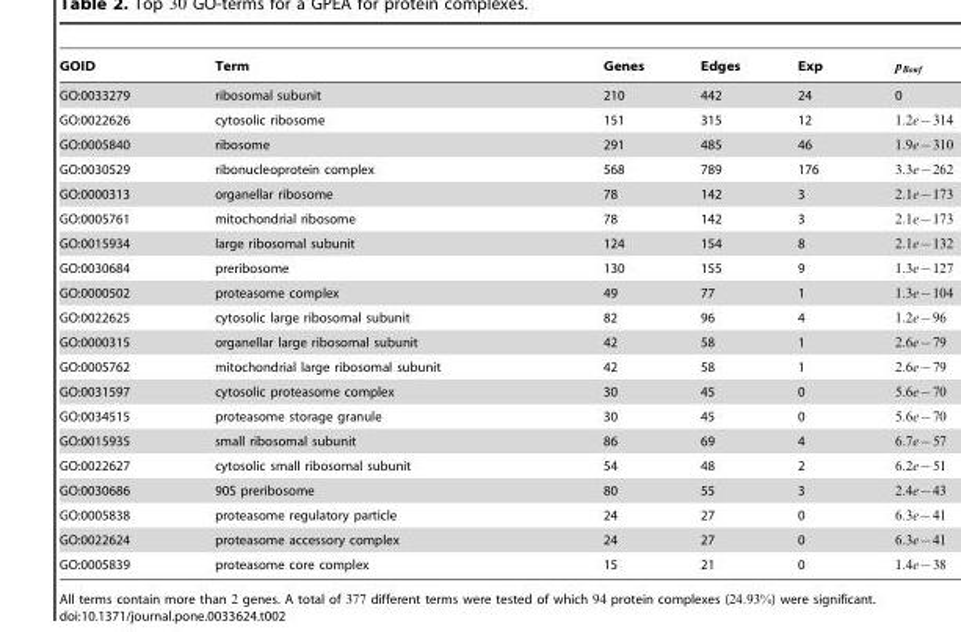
<table><thead><tr><td>GOID</td><td>Term</td><td>Genes</td><td>Edges</td><td>Exp</td><td></td></tr></thead><tbody><tr><td>GO:0033279</td><td>ribosomal subunit</td><td>210</td><td>442</td><td>24</td><td>0</td></tr><tr><td>GO:0022626</td><td>cytosolic ribosome</td><td>151</td><td>315</td><td>12</td><td></td></tr><tr><td>GO:0005840</td><td>ribosome</td><td>291</td><td>485</td><td>46</td><td></td></tr><tr><td>GO:0030529</td><td>ribonucleoprotein complex</td><td>568</td><td>789</td><td>176</td><td></td></tr><tr><td>GO:0000313</td><td>organellar ribosome</td><td>78</td><td>142</td><td>3</td><td></td></tr><tr><td>GO:0005761</td><td>mitochondrial ribosome</td><td>78</td><td>142</td><td>3</td><td></td></tr><tr><td>GO:0015934</td><td>large ribosomal subunit</td><td>124</td><td>154</td><td>8</td><td></td></tr><tr><td>GO:0030684</td><td>preribosome</td><td>130</td><td>155</td><td>9</td><td></td></tr><tr><td>GO:0000502</td><td>proteasome complex</td><td>49</td><td>77</td><td>1</td><td></td></tr><tr><td>GO:0022625</td><td>cytosolic large ribosomal subunit</td><td>82</td><td>96</td><td>4</td><td></td></tr><tr><td>GO:0000315</td><td>organellar large ribosomal subunit</td><td>42</td><td>58</td><td>1</td><td></td></tr><tr><td>GO:0005762</td><td>mitochondrial large ribosomal subunit</td><td>42</td><td>58</td><td>1</td><td></td></tr><tr><td>GO:0031597</td><td>cytosolic proteasome complex</td><td>30</td><td>45</td><td>0</td><td></td></tr><tr><td>GO:0034515</td><td>proteasome storage granule</td><td>30</td><td>45</td><td>0</td><td></td></tr><tr><td>GO:0015935</td><td>small ribosomal subunit</td><td>86</td><td>69</td><td>4</td><td></td></tr><tr><td>GO:0022627</td><td>cytosolic small ribosomal subunit</td><td>54</td><td>48</td><td>2</td><td></td></tr><tr><td>GO:0030686</td><td>90S preribosome</td><td>80</td><td>55</td><td>3</td><td></td></tr><tr><td>GO:0005838</td><td>proteasome regulatory particle</td><td>24</td><td>27</td><td>0</td><td></td></tr><tr><td>GO:0022624</td><td>proteasome accessory complex</td><td>24</td><td>27</td><td>0</td><td></td></tr><tr><td>GO:0005839</td><td>proteasome core complex</td><td>15</td><td>21</td><td>0</td><td></td></tr></tbody></table>